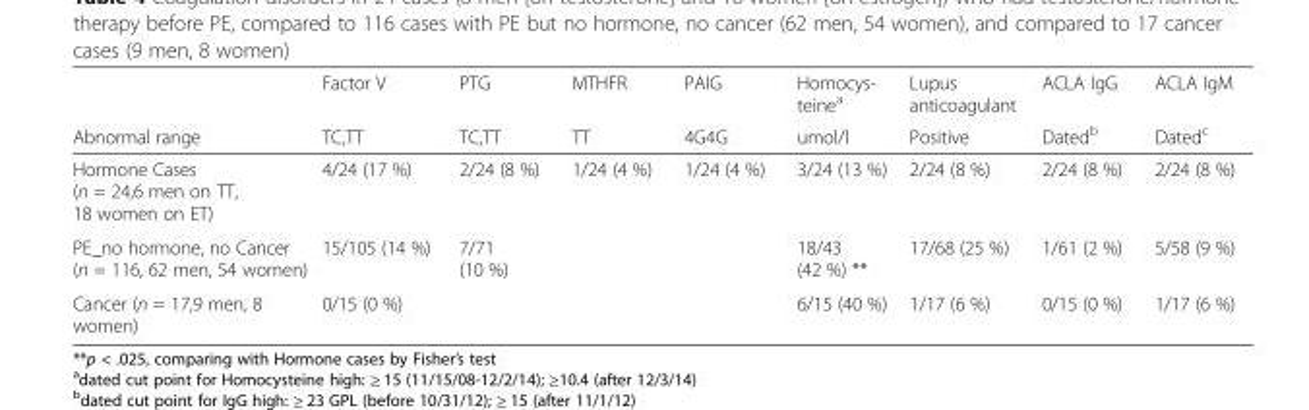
<table><thead><tr><td rowspan="2">Abnormal range</td><td rowspan="2">Factor V TC,TT</td><td rowspan="2">PTG TC,TT</td><td rowspan="2">MTHFR TT</td><td rowspan="2">PAIG 4G4G</td><td rowspan="2">Homocys- teine<sup>a</sup> umol/l</td><td rowspan="2">Lupus anticoagulant Positive</td><td rowspan="2">ACLA IgG Dated<sup>b</sup></td><td rowspan="2">ACLA IgM Dated<sup>c</sup></td></tr><tr></tr></thead><tbody><tr><td>Hormone Cases (n = 24,6 men on TT, 18 women on ET)</td><td>4/24 (17 %)</td><td>2/24 (8 %)</td><td>1/24 (4 %)</td><td>1/24 (4 %)</td><td>3/24 (13 %)</td><td>2/24 (8 %)</td><td>2/24 (8 %)</td><td>2/24 (8 %)</td></tr><tr><td>PE_no hormone, no Cancer (n = 116, 62 men, 54 women)</td><td>15/105 (14 %)</td><td>7/71 (10 %)</td><td></td><td></td><td>18/43 (42 %) **</td><td>17/68 (25 %)</td><td>1/61 (2 %)</td><td>5/58 (9 %)</td></tr><tr><td>Cancer (n = 17,9 men, 8 women)</td><td>0/15 (0 %)</td><td></td><td></td><td></td><td>6/15 (40 %)</td><td>1/17 (6 %)</td><td>0/15 (0 %)</td><td>1/17 (6 %)</td></tr></tbody></table>